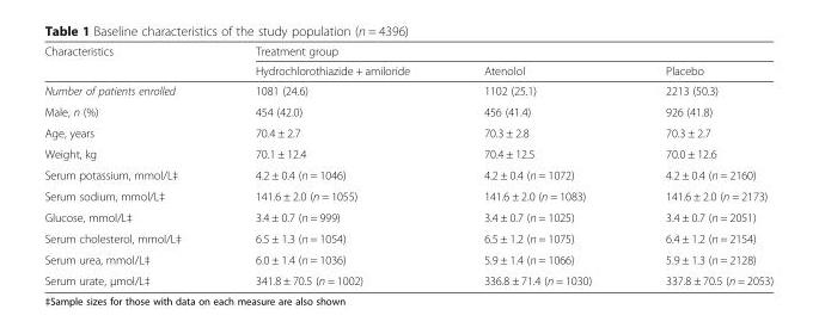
<table><thead><tr><td rowspan="2">Characteristics</td><td colspan="3">Treatment group</td></tr><tr><td>Hydrochlorothiazide + amiloride</td><td>Atenolol</td><td>Placebo</td></tr></thead><tbody><tr><td>Number of patients enrolled</td><td>1081 (24.6)</td><td>1102 (25.1)</td><td>2213 (50.3)</td></tr><tr><td>Male, n (%)</td><td>454 (42.0)</td><td>456 (41.4)</td><td>926 (41.8)</td></tr><tr><td>Age, years</td><td>70.4 ± 2.7</td><td>70.3 ± 2.8</td><td>70.3 ± 2.7</td></tr><tr><td>Weight, kg</td><td>70.1 ± 12.4</td><td>70.4 ± 12.5</td><td>70.0 ± 12.6</td></tr><tr><td>Serum potassium, mmol/L‡</td><td>4.2 ± 0.4 (n = 1046)</td><td>4.2 ± 0.4 (n = 1072)</td><td>4.2 ± 0.4 (n = 2160)</td></tr><tr><td>Serum sodium, mmol/L‡</td><td>141.6 ± 2.0 (n = 1055)</td><td>141.6 ± 2.0 (n = 1083)</td><td>141.6 ± 2.0 (n = 2173)</td></tr><tr><td>Glucose, mmol/L‡</td><td>3.4 ± 0.7 (n = 999)</td><td>3.4 ± 0.7 (n = 1025)</td><td>3.4 ± 0.7 (n = 2051)</td></tr><tr><td>Serum cholesterol, mmol/L‡</td><td>6.5 ± 1.3 (n = 1054)</td><td>6.5 ± 1.2 (n = 1075)</td><td>6.4 ± 1.2 (n = 2154)</td></tr><tr><td>Serum urea, mmol/L‡</td><td>6.0 ± 1.4 (n = 1036)</td><td>5.9 ± 1.4 (n = 1066)</td><td>5.9 ± 1.3 (n = 2128)</td></tr><tr><td>Serum urate, μmol/L‡</td><td>341.8 ± 70.5 (n = 1002)</td><td>336.8 ± 71.4 (n = 1030)</td><td>337.8 ± 70.5 (n = 2053)</td></tr></tbody></table>